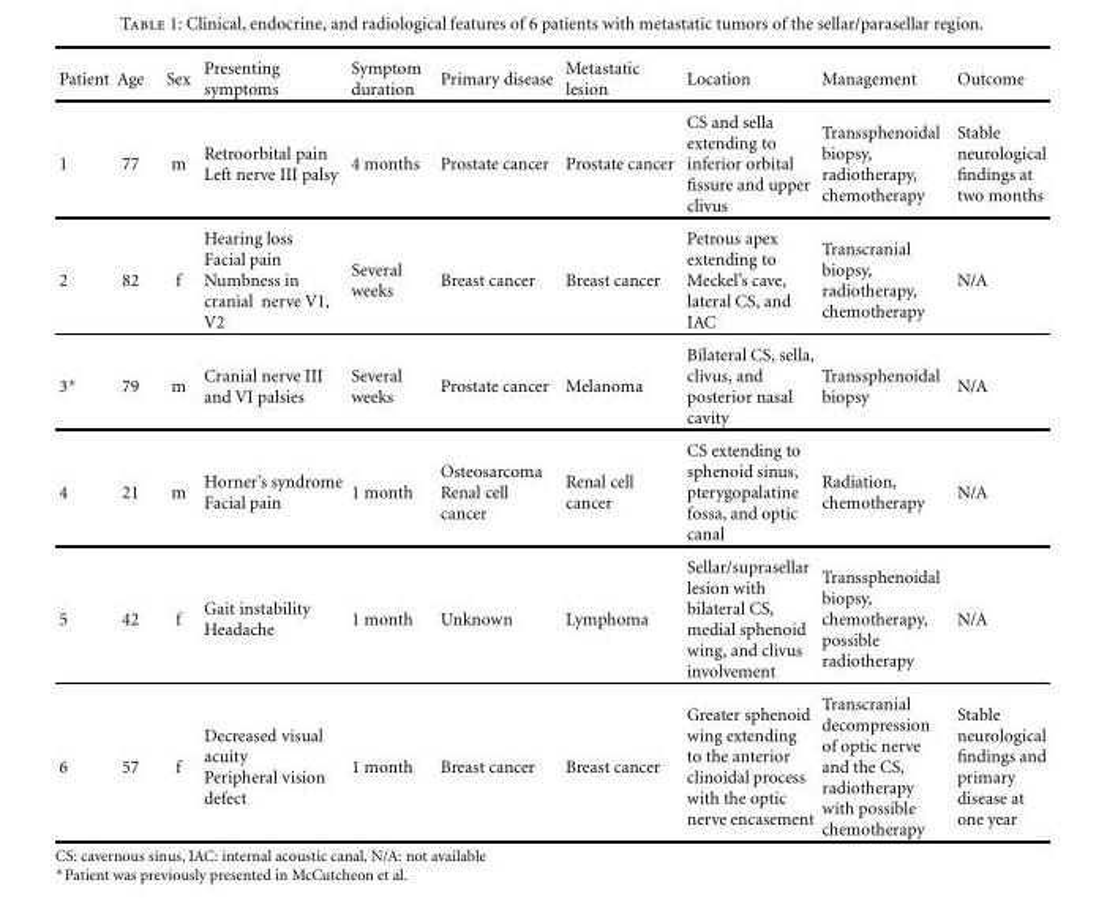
<table><thead><tr><td>Patient</td><td>Age</td><td>Sex</td><td>Presenting symptoms</td><td>Symptom duration</td><td>Primary disease</td><td>Metastatic lesion</td><td>Location</td><td>Management</td><td>Outcome</td></tr></thead><tbody><tr><td>1</td><td>77</td><td>m</td><td>Retroorbital pain Left nerve III palsy</td><td>4 months</td><td>Prostate cancer</td><td>Prostate cancer</td><td>CS and sella extending to inferior orbital fissure and upper clivus</td><td>Transsphenoidal biopsy, radiotherapy, chemotherapy</td><td>Stable neurological findings at two months</td></tr><tr><td>2</td><td>82</td><td>f</td><td>Hearing loss Facial pain Numbness in cranial nerve V1, V2</td><td>Several weeks</td><td>Breast cancer</td><td>Breast cancer</td><td>Petrous apex extending to Meckel’s cave, lateral CS, and IAC</td><td>Transcranial biopsy, radiotherapy, chemotherapy</td><td>N/A</td></tr><tr><td>3∗</td><td>79</td><td>m</td><td>Cranial nerve III and VI palsies</td><td>Several weeks</td><td>Prostate cancer</td><td>Melanoma</td><td>Bilateral CS, sella, clivus, and posterior nasal cavity</td><td>Transsphenoidal biopsy</td><td>N/A</td></tr><tr><td>4</td><td>21</td><td>m</td><td>Horner’s syndrome Facial pain</td><td>1 month</td><td>Osteosarcoma Renal cell cancer</td><td>Renal cell cancer</td><td>CS extending to sphenoid sinus, pterygopalatine fossa, and optic canal</td><td>Radiation, chemotherapy</td><td>N/A</td></tr><tr><td>5</td><td>42</td><td>f</td><td>Gait instability Headache</td><td>1 month</td><td>Unknown</td><td>Lymphoma</td><td>Sellar/suprasellar lesion with bilateral CS, medial sphenoid wing, and clivus involvement</td><td>Transsphenoidal biopsy, chemotherapy, possible radiotherapy</td><td>N/A</td></tr><tr><td>6</td><td>57</td><td>f</td><td>Decreased visual acuity Peripheral vision defect</td><td>1 month</td><td>Breast cancer</td><td>Breast cancer</td><td>Greater sphenoid wing extending to the anterior clinoidal process with the optic nerve encasement</td><td>Transcranial decompression of optic nerve and the CS, radiotherapy with possible chemotherapy</td><td>Stable neurological findings and primary disease at one year</td></tr></tbody></table>